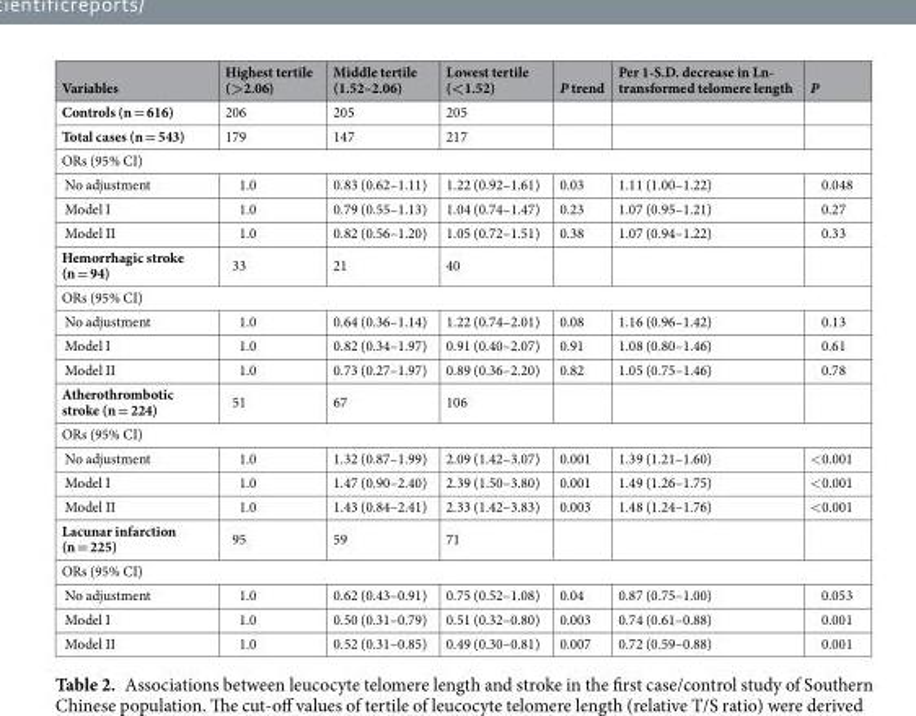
<table><thead><tr><td>Variables</td><td>Highest tertile (&gt;2.06)</td><td>Middle tertile (1.52–2.06)</td><td>Lowest tertile (&lt;1.52)</td><td>P trend</td><td>Per 1-S.D. decrease in Ln- transformed telomere length</td><td>P</td></tr></thead><tbody><tr><td>Controls (n = 616)</td><td>206</td><td>205</td><td>205</td><td></td><td></td><td></td></tr><tr><td>Total cases (n = 543)</td><td>179</td><td>147</td><td>217</td><td></td><td></td><td></td></tr><tr><td colspan="7">ORs (95% CI)</td></tr><tr><td>No adjustment</td><td>1.0</td><td>0.83 (0.62–1.11)</td><td>1.22 (0.92–1.61)</td><td>0.03</td><td>1.11 (1.00–1.22)</td><td>0.048</td></tr><tr><td>Model I</td><td>1.0</td><td>0.79 (0.55–1.13)</td><td>1.04 (0.74–1.47)</td><td>0.23</td><td>1.07 (0.95–1.21)</td><td>0.27</td></tr><tr><td>Model II</td><td>1.0</td><td>0.82 (0.56–1.20)</td><td>1.05 (0.72–1.51)</td><td>0.38</td><td>1.07 (0.94–1.22)</td><td>0.33</td></tr><tr><td>Hemorrhagic stroke (n = 94)</td><td>33</td><td>21</td><td>40</td><td></td><td></td><td></td></tr><tr><td colspan="7">ORs (95% CI)</td></tr><tr><td>No adjustment</td><td>1.0</td><td>0.64 (0.36–1.14)</td><td>1.22 (0.74–2.01)</td><td>0.08</td><td>1.16 (0.96–1.42)</td><td>0.13</td></tr><tr><td>Model I</td><td>1.0</td><td>0.82 (0.34–1.97)</td><td>0.91 (0.40–2.07)</td><td>0.91</td><td>1.08 (0.80–1.46)</td><td>0.61</td></tr><tr><td>Model II</td><td>1.0</td><td>0.73 (0.27–1.97)</td><td>0.89 (0.36–2.20)</td><td>0.82</td><td>1.05 (0.75–1.46)</td><td>0.78</td></tr><tr><td>Atherothrombotic stroke (n = 224)</td><td>51</td><td>67</td><td>106</td><td></td><td></td><td></td></tr><tr><td colspan="7">ORs (95% CI)</td></tr><tr><td>No adjustment</td><td>1.0</td><td>1.32 (0.87–1.99)</td><td>2.09 (1.42–3.07)</td><td>0.001</td><td>1.39 (1.21–1.60)</td><td>&lt;0.001</td></tr><tr><td>Model I</td><td>1.0</td><td>1.47 (0.90–2.40)</td><td>2.39 (1.50–3.80)</td><td>0.001</td><td>1.49 (1.26–1.75)</td><td>&lt;0.001</td></tr><tr><td>Model II</td><td>1.0</td><td>1.43 (0.84–2.41)</td><td>2.33 (1.42–3.83)</td><td>0.003</td><td>1.48 (1.24–1.76)</td><td>&lt;0.001</td></tr><tr><td>Lacunar infarction (n = 225)</td><td>95</td><td>59</td><td>71</td><td></td><td></td><td></td></tr><tr><td colspan="7">ORs (95% CI)</td></tr><tr><td>No adjustment</td><td>1.0</td><td>0.62 (0.43–0.91)</td><td>0.75 (0.52–1.08)</td><td>0.04</td><td>0.87 (0.75–1.00)</td><td>0.053</td></tr><tr><td>Model I</td><td>1.0</td><td>0.50 (0.31–0.79)</td><td>0.51 (0.32–0.80)</td><td>0.003</td><td>0.74 (0.61–0.88)</td><td>0.001</td></tr><tr><td>Model II</td><td>1.0</td><td>0.52 (0.31–0.85)</td><td>0.49 (0.30–0.81)</td><td>0.007</td><td>0.72 (0.59–0.88)</td><td>0.001</td></tr></tbody></table>